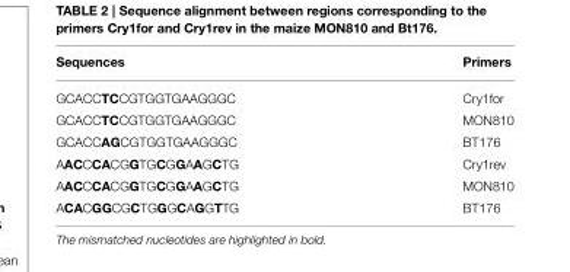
<table><thead><tr><td>Sequences</td><td>Primers</td></tr></thead><tbody><tr><td>GCACCTCCGTGGTGAAGGGC</td><td>Cry1for</td></tr><tr><td>GCACCTCCGTGGTGAAGGGC</td><td>MON810</td></tr><tr><td>GCACCAGCGTGGTGAAGGGC</td><td>BT176</td></tr><tr><td>AACCCACGGTGCGGAAGCTG</td><td>Cry1rev</td></tr><tr><td>AACCCACGGTGCGGAAGCTG</td><td>MON810</td></tr><tr><td>ACACGGCGCTGGGCAGGTTG</td><td>BT176</td></tr></tbody></table>